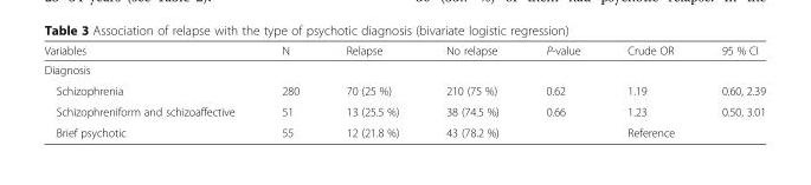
<table><thead><tr><td>Variables</td><td>N</td><td>Relapse</td><td>No relapse</td><td>P-value</td><td>Crude OR</td><td>95 % CI</td></tr></thead><tbody><tr><td colspan="7">Diagnosis</td></tr><tr><td>Schizophrenia</td><td>280</td><td>70 (25 %)</td><td>210 (75 %)</td><td>0.62</td><td>1.19</td><td>0.60, 2.39</td></tr><tr><td>Schizophreniform and schizoaffective</td><td>51</td><td>13 (25.5 %)</td><td>38 (74.5 %)</td><td>0.66</td><td>1.23</td><td>0.50, 3.01</td></tr><tr><td>Brief psychotic</td><td>55</td><td>12 (21.8 %)</td><td>43 (78.2 %)</td><td></td><td>Reference</td><td></td></tr></tbody></table>